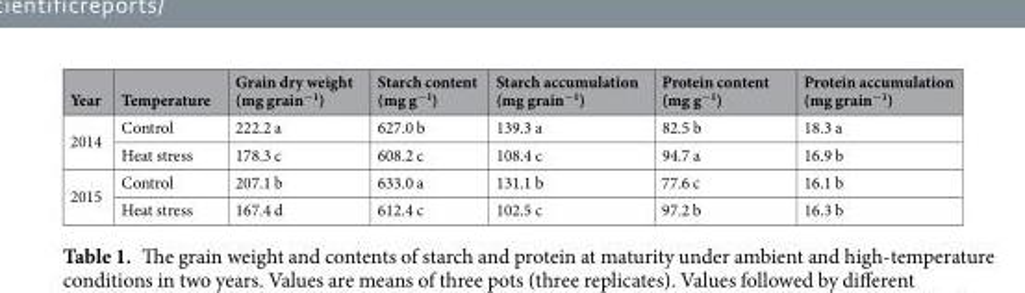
<table><thead><tr><td>Year</td><td>Temperature</td><td>Grain dry weight (mg grain<sup>−1</sup>)</td><td>Starch content (mg g<sup>−1</sup>)</td><td>Starch accumulation (mg grain<sup>−1</sup>)</td><td>Protein content (mg g<sup>−1</sup>)</td><td>Protein accumulation (mg grain<sup>−1</sup>)</td></tr></thead><tbody><tr><td rowspan="2">2014</td><td>Control</td><td>222.2 a</td><td>627.0 b</td><td>139.3 a</td><td>82.5 b</td><td>18.3 a</td></tr><tr><td>Heat stress</td><td>178.3 c</td><td>608.2 c</td><td>108.4 c</td><td>94.7 a</td><td>16.9 b</td></tr><tr><td rowspan="2">2015</td><td>Control</td><td>207.1 b</td><td>633.0 a</td><td>131.1 b</td><td>77.6 c</td><td>16.1 b</td></tr><tr><td>Heat stress</td><td>167.4 d</td><td>612.4 c</td><td>102.5 c</td><td>97.2 b</td><td>16.3 b</td></tr></tbody></table>